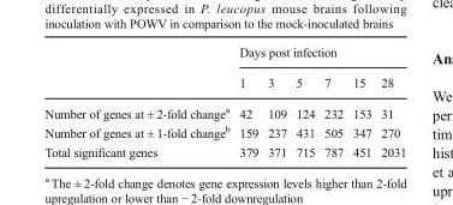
<table><thead><tr><td rowspan="2"></td><td colspan="6">Days post infection</td></tr><tr><td>1</td><td>3</td><td>5</td><td>7</td><td>15</td><td>28</td></tr></thead><tbody><tr><td>Number of genes at ± 2-fold change<sup>a</sup></td><td>42</td><td>109</td><td>124</td><td>232</td><td>153</td><td>31</td></tr><tr><td>Number of genes at ± 1-fold change<sup>b</sup></td><td>159</td><td>237</td><td>431</td><td>505</td><td>347</td><td>270</td></tr><tr><td>Total significant genes</td><td>379</td><td>371</td><td>715</td><td>787</td><td>451</td><td>2031</td></tr></tbody></table>